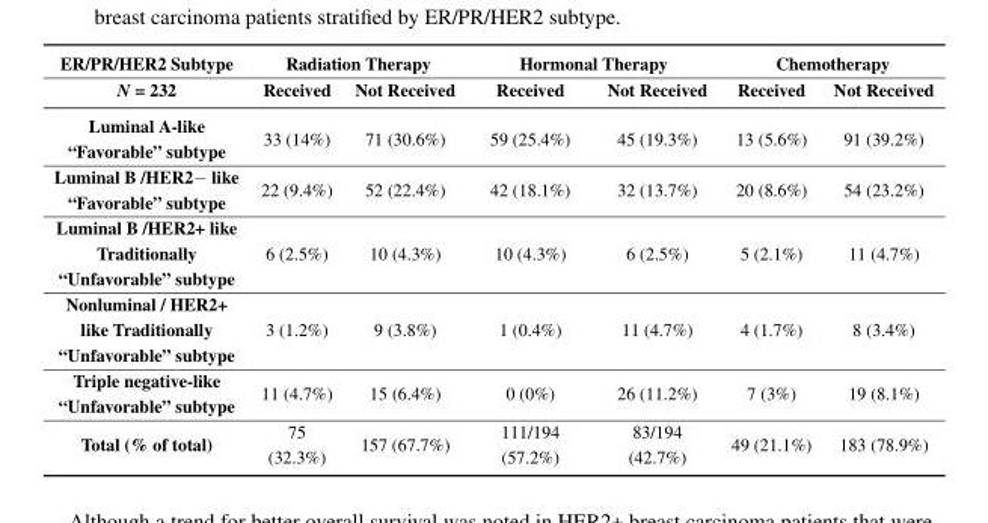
<table><thead><tr><td rowspan="2">ER/PR/HER2 Subtype N = 232</td><td colspan="2">Radiation Therapy</td><td colspan="2">Hormonal Therapy</td><td colspan="2">Chemotherapy</td></tr><tr><td>Received</td><td>Not Received</td><td>Received</td><td>Not Received</td><td>Received</td><td>Not Received</td></tr></thead><tbody><tr><td>Luminal A-like “Favorable” subtype</td><td>33 (14%)</td><td>71 (30.6%)</td><td>59 (25.4%)</td><td>45 (19.3%)</td><td>13 (5.6%)</td><td>91 (39.2%)</td></tr><tr><td>Luminal B /HER2− like “Favorable” subtype</td><td>22 (9.4%)</td><td>52 (22.4%)</td><td>42 (18.1%)</td><td>32 (13.7%)</td><td>20 (8.6%)</td><td>54 (23.2%)</td></tr><tr><td>Luminal B /HER2+ like Traditionally “Unfavorable” subtype</td><td>6 (2.5%)</td><td>10 (4.3%)</td><td>10 (4.3%)</td><td>6 (2.5%)</td><td>5 (2.1%)</td><td>11 (4.7%)</td></tr><tr><td>Nonluminal / HER2+ like Traditionally “Unfavorable” subtype</td><td>3 (1.2%)</td><td>9 (3.8%)</td><td>1 (0.4%)</td><td>11 (4.7%)</td><td>4 (1.7%)</td><td>8 (3.4%)</td></tr><tr><td>Triple negative-like “Unfavorable” subtype</td><td>11 (4.7%)</td><td>15 (6.4%)</td><td>0 (0%)</td><td>26 (11.2%)</td><td>7 (3%)</td><td>19 (8.1%)</td></tr><tr><td>Total (% of total)</td><td>75 (32.3%)</td><td>157 (67.7%)</td><td>111/194 (57.2%)</td><td>83/194 (42.7%)</td><td>49 (21.1%)</td><td>183 (78.9%)</td></tr></tbody></table>